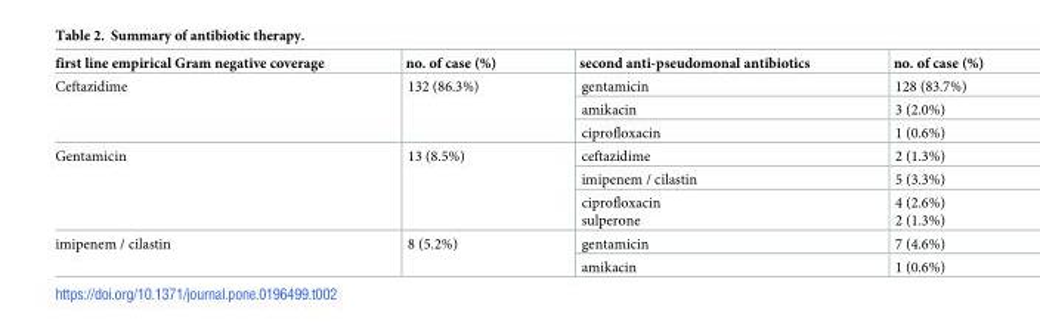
<table><thead><tr><td>first line empirical Gram negative coverage</td><td>no. of case (%)</td><td>second anti-pseudomonal antibiotics</td><td>no. of case (%)</td></tr></thead><tbody><tr><td rowspan="3">Ceftazidime</td><td rowspan="3">132 (86.3%)</td><td>gentamicin</td><td>128 (83.7%)</td></tr><tr><td>amikacin</td><td>3 (2.0%)</td></tr><tr><td>ciprofloxacin</td><td>1 (0.6%)</td></tr><tr><td rowspan="3">Gentamicin</td><td rowspan="3">13 (8.5%)</td><td>ceftazidime</td><td>2 (1.3%)</td></tr><tr><td>imipenem / cilastin</td><td>5 (3.3%)</td></tr><tr><td>ciprofloxacin sulperone</td><td>4 (2.6%) 2 (1.3%)</td></tr><tr><td rowspan="2">imipenem / cilastin</td><td rowspan="2">8 (5.2%)</td><td>gentamicin</td><td>7 (4.6%)</td></tr><tr><td>amikacin</td><td>1 (0.6%)</td></tr></tbody></table>